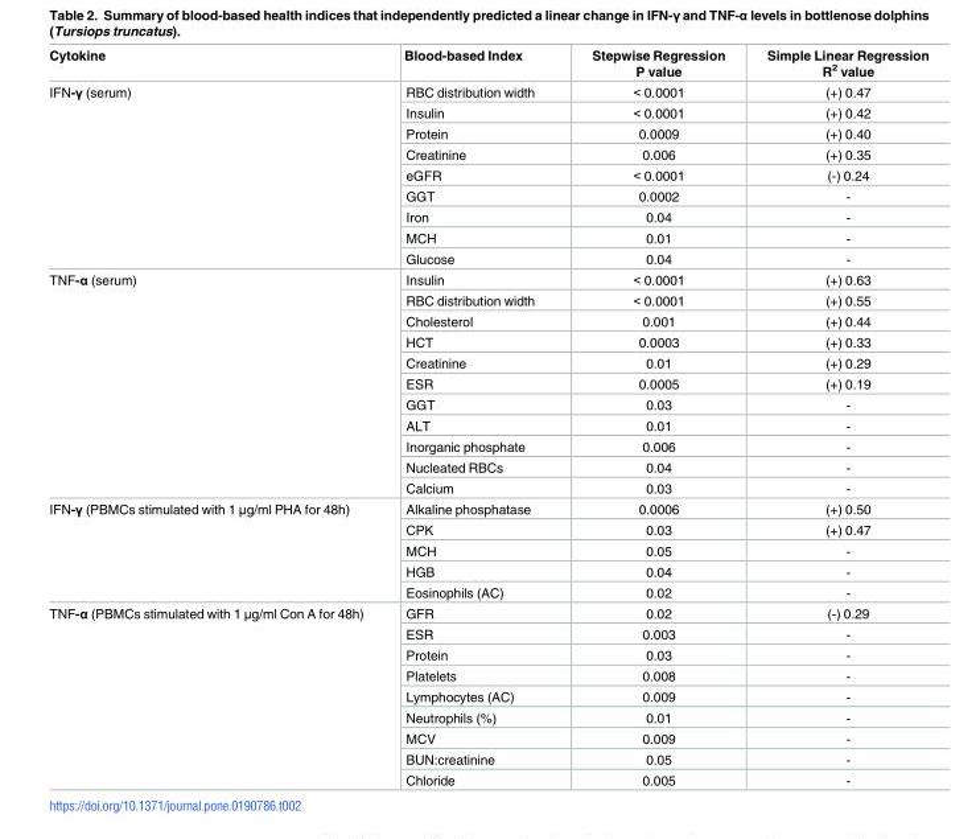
<table><thead><tr><td>Cytokine</td><td>Blood-based Index</td><td>Stepwise Regression P value</td><td>Simple Linear Regression R<sup>2</sup> value</td></tr></thead><tbody><tr><td rowspan="9">IFN-γ (serum)</td><td>RBC distribution width</td><td>&lt; 0.0001</td><td>(+) 0.47</td></tr><tr><td>Insulin</td><td>&lt; 0.0001</td><td>(+) 0.42</td></tr><tr><td>Protein</td><td>0.0009</td><td>(+) 0.40</td></tr><tr><td>Creatinine</td><td>0.006</td><td>(+) 0.35</td></tr><tr><td>eGFR</td><td>&lt; 0.0001</td><td>(-) 0.24</td></tr><tr><td>GGT</td><td>0.0002</td><td>-</td></tr><tr><td>Iron</td><td>0.04</td><td>-</td></tr><tr><td>MCH</td><td>0.01</td><td>-</td></tr><tr><td>Glucose</td><td>0.04</td><td>-</td></tr><tr><td rowspan="11">TNF-α (serum)</td><td>Insulin</td><td>&lt; 0.0001</td><td>(+) 0.63</td></tr><tr><td>RBC distribution width</td><td>&lt; 0.0001</td><td>(+) 0.55</td></tr><tr><td>Cholesterol</td><td>0.001</td><td>(+) 0.44</td></tr><tr><td>HCT</td><td>0.0003</td><td>(+) 0.33</td></tr><tr><td>Creatinine</td><td>0.01</td><td>(+) 0.29</td></tr><tr><td>ESR</td><td>0.0005</td><td>(+) 0.19</td></tr><tr><td>GGT</td><td>0.03</td><td>-</td></tr><tr><td>ALT</td><td>0.01</td><td>-</td></tr><tr><td>Inorganic phosphate</td><td>0.006</td><td>-</td></tr><tr><td>Nucleated RBCs</td><td>0.04</td><td>-</td></tr><tr><td>Calcium</td><td>0.03</td><td>-</td></tr><tr><td rowspan="5">IFN-γ (PBMCs stimulated with 1 μg/ml PHA for 48h)</td><td>Alkaline phosphatase</td><td>0.0006</td><td>(+) 0.50</td></tr><tr><td>CPK</td><td>0.03</td><td>(+) 0.47</td></tr><tr><td>MCH</td><td>0.05</td><td>-</td></tr><tr><td>HGB</td><td>0.04</td><td>-</td></tr><tr><td>Eosinophils (AC)</td><td>0.02</td><td>-</td></tr><tr><td rowspan="9">TNF-α (PBMCs stimulated with 1 μg/ml Con A for 48h)</td><td>GFR</td><td>0.02</td><td>(-) 0.29</td></tr><tr><td>ESR</td><td>0.003</td><td>-</td></tr><tr><td>Protein</td><td>0.03</td><td>-</td></tr><tr><td>Platelets</td><td>0.008</td><td>-</td></tr><tr><td>Lymphocytes (AC)</td><td>0.009</td><td>-</td></tr><tr><td>Neutrophils (%)</td><td>0.01</td><td>-</td></tr><tr><td>MCV</td><td>0.009</td><td>-</td></tr><tr><td>BUN:creatinine</td><td>0.05</td><td>-</td></tr><tr><td>Chloride</td><td>0.005</td><td>-</td></tr></tbody></table>